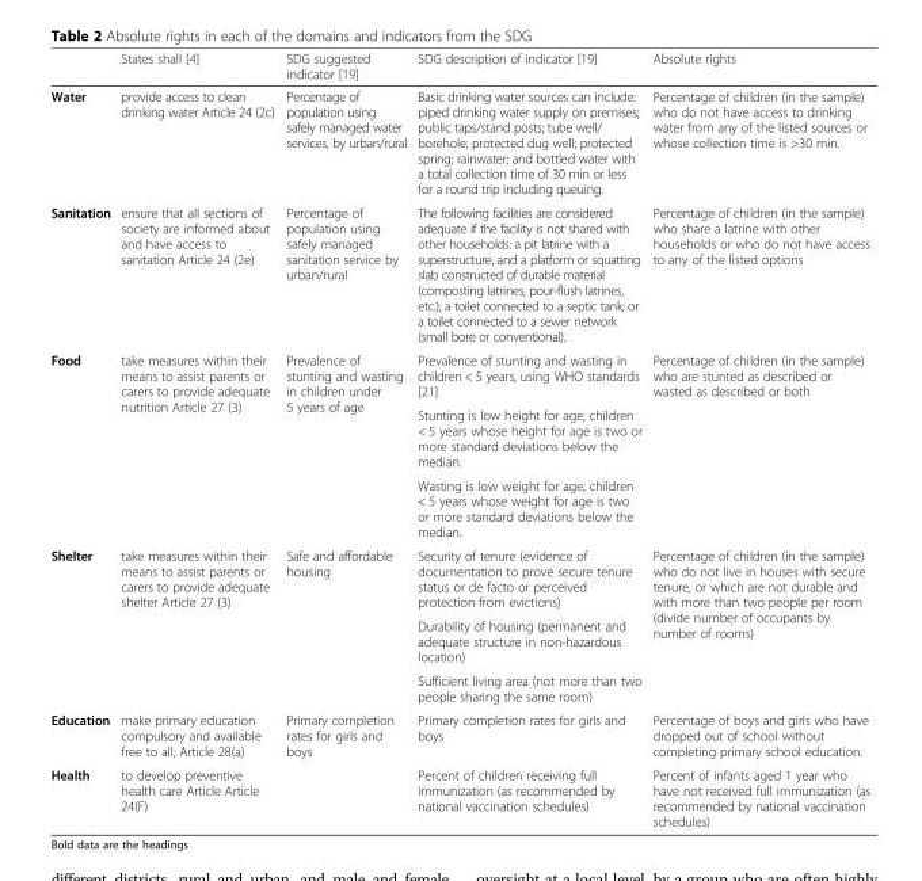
<table><thead><tr><td></td><td>States shall [4]</td><td>SDG suggested indicator [19]</td><td>SDG description of indicator [19]</td><td>Absolute rights</td></tr></thead><tbody><tr><td>Water</td><td>provide access to clean drinking water Article 24 (2c)</td><td>Percentage of population using safely managed water services, by urban/rural</td><td>Basic drinking water sources can include: piped drinking water supply on premises; public taps/stand posts; tube well/ borehole; protected dug well; protected spring; rainwater; and bottled water with a total collection time of 30 min or less for a round trip including queuing.</td><td>Percentage of children (in the sample) who do not have access to drinking water from any of the listed sources or whose collection time is &gt;30 min.</td></tr><tr><td>Sanitation</td><td>ensure that all sections of society are informed about and have access to sanitation Article 24 (2e)</td><td>Percentage of population using safely managed sanitation service by urban/rural</td><td>The following facilities are considered adequate if the facility is not shared with other households: a pit latrine with a superstructure, and a platform or squatting slab constructed of durable material (composting latrines, pour-flush latrines, etc.); a toilet connected to a septic tank; or a toilet connected to a sewer network (small bore or conventional).</td><td>Percentage of children (in the sample) who share a latrine with other households or who do not have access to any of the listed options</td></tr><tr><td rowspan="3">Food</td><td rowspan="3">take measures within their means to assist parents or carers to provide adequate nutrition Article 27 (3)</td><td rowspan="3">Prevalence of stunting and wasting in children under 5 years of age</td><td>Prevalence of stunting and wasting in children &lt; 5 years, using WHO standards [21]</td><td rowspan="3">Percentage of children (in the sample) who are stunted as described or wasted as described or both</td></tr><tr><td>Stunting is low height for age; children &lt; 5 years whose height for age is two or more standard deviations below the median.</td></tr><tr><td>Wasting is low weight for age; children &lt; 5 years whose weight for age is two or more standard deviations below the median.</td></tr><tr><td rowspan="3">Shelter</td><td rowspan="3">take measures within their means to assist parents or carers to provide adequate shelter Article 27 (3)</td><td rowspan="3">Safe and affordable housing</td><td>Security of tenure (evidence of documentation to prove secure tenure status or de facto or perceived protection from evictions)</td><td rowspan="3">Percentage of children (in the sample) who do not live in houses with secure tenure, or which are not durable and with more than two people per room (divide number of occupants by number of rooms)</td></tr><tr><td>Durability of housing (permanent and adequate structure in non-hazardous location)</td></tr><tr><td>Sufficient living area (not more than two people sharing the same room)</td></tr><tr><td>Education</td><td>make primary education compulsory and available free to all; Article 28(a)</td><td>Primary completion rates for girls and boys</td><td>Primary completion rates for girls and boys</td><td>Percentage of boys and girls who have dropped out of school without completing primary school education.</td></tr><tr><td>Health</td><td>to develop preventive health care Article Article 24(F)</td><td></td><td>Percent of children receiving full immunization (as recommended by national vaccination schedules)</td><td>Percent of infants aged 1 year who have not received full immunization (as recommended by national vaccination schedules)</td></tr></tbody></table>